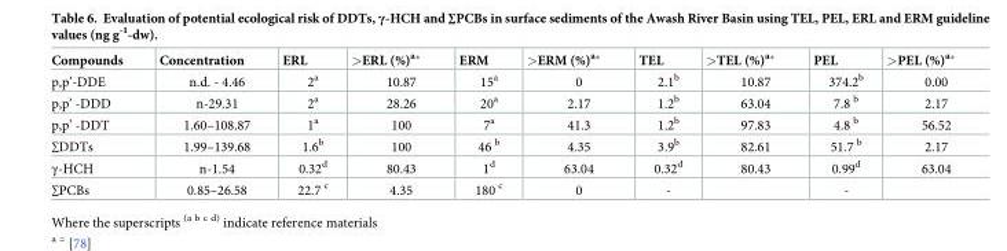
<table><thead><tr><td>Compounds</td><td>Concentration</td><td>ERL</td><td>&gt;ERL (%)<sup>a</sup>*</td><td>ERM</td><td>&gt;ERM (%)<sup>a</sup>*</td><td>TEL</td><td>&gt;TEL (%)<sup>a</sup>*</td><td>PEL</td><td>&gt;PEL (%)<sup>a</sup>*</td></tr></thead><tbody><tr><td>p,p’-DDE</td><td>n.d. - 4.46</td><td>2<sup>a</sup></td><td>10.87</td><td>15<sup>a</sup></td><td>0</td><td>2.1<sup>b</sup></td><td>10.87</td><td>374.2<sup>b</sup></td><td>0.00</td></tr><tr><td>p,p’ -DDD</td><td>n-29.31</td><td>2<sup>a</sup></td><td>28.26</td><td>20<sup>a</sup></td><td>2.17</td><td>1.2<sup>b</sup></td><td>63.04</td><td>7.8 <sup>b</sup></td><td>2.17</td></tr><tr><td>p,p’ -DDT</td><td>1.60–108.87</td><td>1<sup>a</sup></td><td>100</td><td>7<sup>a</sup></td><td>41.3</td><td>1.2<sup>b</sup></td><td>97.83</td><td>4.8 <sup>b</sup></td><td>56.52</td></tr><tr><td>∑DDTs</td><td>1.99–139.68</td><td>1.6<sup>b</sup></td><td>100</td><td>46 <sup>b</sup></td><td>4.35</td><td>3.9<sup>b</sup></td><td>82.61</td><td>51.7 <sup>b</sup></td><td>2.17</td></tr><tr><td>γ-HCH</td><td>n-1.54</td><td>0.32<sup>d</sup></td><td>80.43</td><td>1<sup>d</sup></td><td>63.04</td><td>0.32<sup>d</sup></td><td>80.43</td><td>0.99<sup>d</sup></td><td>63.04</td></tr><tr><td>∑PCBs</td><td>0.85–26.58</td><td>22.7 <sup>c</sup></td><td>4.35</td><td>180 <sup>c</sup></td><td>0</td><td>-</td><td></td><td>-</td><td></td></tr></tbody></table>